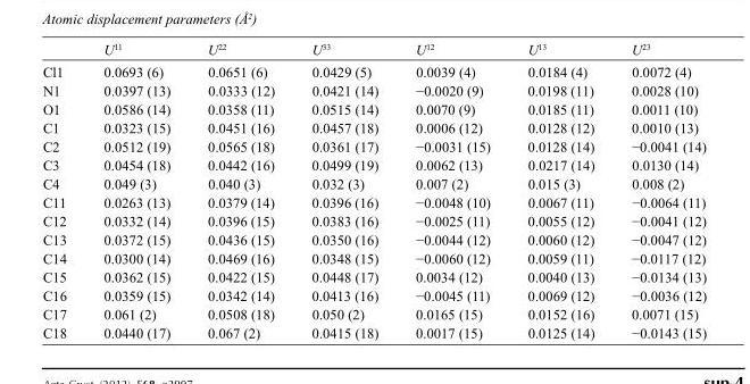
<table><thead><tr><td></td><td>U<sup>11</sup></td><td>U<sup>22</sup></td><td>U<sup>33</sup></td><td>U<sup>12</sup></td><td>U<sup>13</sup></td><td>U<sup>23</sup></td></tr></thead><tbody><tr><td>Cl1</td><td>0.0693 (6)</td><td>0.0651 (6)</td><td>0.0429 (5)</td><td>0.0039 (4)</td><td>0.0184 (4)</td><td>0.0072 (4)</td></tr><tr><td>N1</td><td>0.0397 (13)</td><td>0.0333 (12)</td><td>0.0421 (14)</td><td>−0.0020 (9)</td><td>0.0198 (11)</td><td>0.0028 (10)</td></tr><tr><td>O1</td><td>0.0586 (14)</td><td>0.0358 (11)</td><td>0.0515 (14)</td><td>0.0070 (9)</td><td>0.0185 (11)</td><td>0.0011 (10)</td></tr><tr><td>C1</td><td>0.0323 (15)</td><td>0.0451 (16)</td><td>0.0457 (18)</td><td>0.0006 (12)</td><td>0.0128 (12)</td><td>0.0010 (13)</td></tr><tr><td>C2</td><td>0.0512 (19)</td><td>0.0565 (18)</td><td>0.0361 (17)</td><td>−0.0031 (15)</td><td>0.0128 (14)</td><td>−0.0041 (14)</td></tr><tr><td>C3</td><td>0.0454 (18)</td><td>0.0442 (16)</td><td>0.0499 (19)</td><td>0.0062 (13)</td><td>0.0217 (14)</td><td>0.0130 (14)</td></tr><tr><td>C4</td><td>0.049 (3)</td><td>0.040 (3)</td><td>0.032 (3)</td><td>0.007 (2)</td><td>0.015 (3)</td><td>0.008 (2)</td></tr><tr><td>C11</td><td>0.0263 (13)</td><td>0.0379 (14)</td><td>0.0396 (16)</td><td>−0.0048 (10)</td><td>0.0067 (11)</td><td>−0.0064 (11)</td></tr><tr><td>C12</td><td>0.0332 (14)</td><td>0.0396 (15)</td><td>0.0383 (16)</td><td>−0.0025 (11)</td><td>0.0055 (12)</td><td>−0.0041 (12)</td></tr><tr><td>C13</td><td>0.0372 (15)</td><td>0.0436 (15)</td><td>0.0350 (16)</td><td>−0.0044 (12)</td><td>0.0060 (12)</td><td>−0.0047 (12)</td></tr><tr><td>C14</td><td>0.0300 (14)</td><td>0.0469 (16)</td><td>0.0348 (15)</td><td>−0.0060 (12)</td><td>0.0059 (11)</td><td>−0.0117 (12)</td></tr><tr><td>C15</td><td>0.0362 (15)</td><td>0.0422 (15)</td><td>0.0448 (17)</td><td>0.0034 (12)</td><td>0.0040 (13)</td><td>−0.0134 (13)</td></tr><tr><td>C16</td><td>0.0359 (15)</td><td>0.0342 (14)</td><td>0.0413 (16)</td><td>−0.0045 (11)</td><td>0.0069 (12)</td><td>−0.0036 (12)</td></tr><tr><td>C17</td><td>0.061 (2)</td><td>0.0508 (18)</td><td>0.050 (2)</td><td>0.0165 (15)</td><td>0.0152 (16)</td><td>0.0071 (15)</td></tr><tr><td>C18</td><td>0.0440 (17)</td><td>0.067 (2)</td><td>0.0415 (18)</td><td>0.0017 (15)</td><td>0.0125 (14)</td><td>−0.0143 (15)</td></tr></tbody></table>